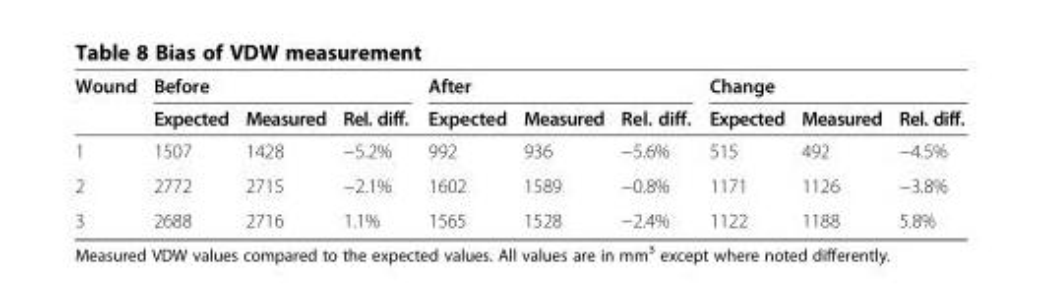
<table><thead><tr><td rowspan="2">Wound</td><td colspan="3">Before</td><td colspan="3">After</td><td colspan="3">Change</td></tr><tr><td>Expected</td><td>Measured</td><td>Rel. diff.</td><td>Expected</td><td>Measured</td><td>Rel. diff.</td><td>Expected</td><td>Measured</td><td>Rel. diff.</td></tr></thead><tbody><tr><td>1</td><td>1507</td><td>1428</td><td>−5.2%</td><td>992</td><td>936</td><td>−5.6%</td><td>515</td><td>492</td><td>−4.5%</td></tr><tr><td>2</td><td>2772</td><td>2715</td><td>−2.1%</td><td>1602</td><td>1589</td><td>−0.8%</td><td>1171</td><td>1126</td><td>−3.8%</td></tr><tr><td>3</td><td>2688</td><td>2716</td><td>1.1%</td><td>1565</td><td>1528</td><td>−2.4%</td><td>1122</td><td>1188</td><td>5.8%</td></tr></tbody></table>